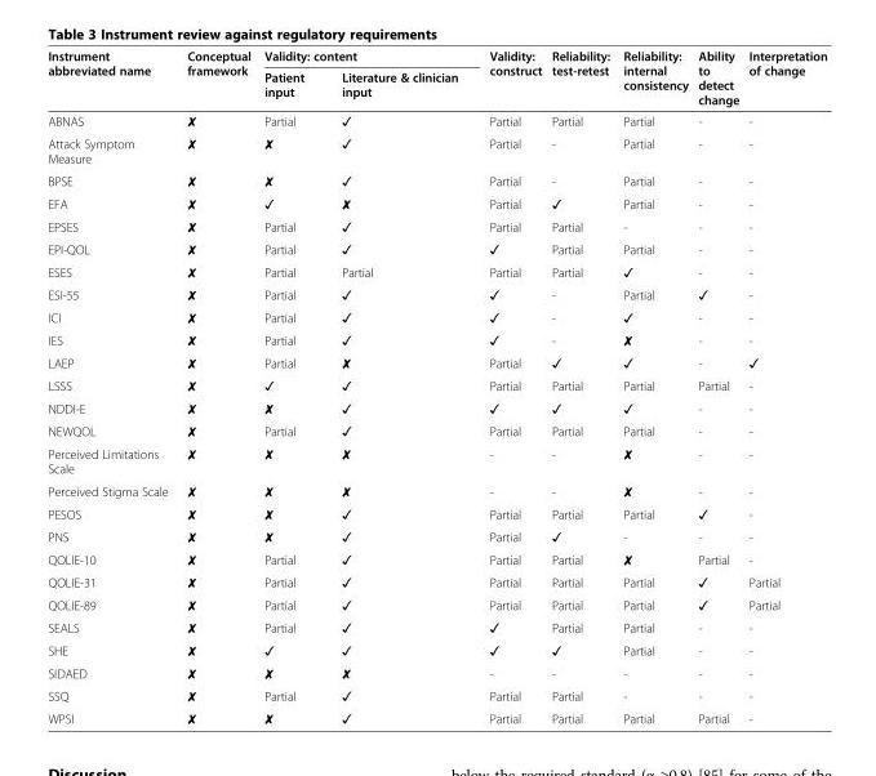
<table><thead><tr><td rowspan="2">Instrument abbreviated name</td><td rowspan="2">Conceptual framework</td><td colspan="2">Validity: content</td><td rowspan="2">Validity: construct</td><td rowspan="2">Reliability: test-retest</td><td rowspan="2">Reliability: internal consistency</td><td rowspan="2">Ability to detect change</td><td rowspan="2">Interpretation of change</td></tr><tr><td>Patient input</td><td>Literature &amp; clinician input</td></tr></thead><tbody><tr><td>ABNAS</td><td>✘</td><td>Partial</td><td>✓</td><td>Partial</td><td>Partial</td><td>Partial</td><td>-</td><td>-</td></tr><tr><td>Attack Symptom Measure</td><td>✘</td><td>✘</td><td>✓</td><td>Partial</td><td>-</td><td>Partial</td><td>-</td><td>-</td></tr><tr><td>BPSE</td><td>✘</td><td>✘</td><td>✓</td><td>Partial</td><td>-</td><td>Partial</td><td>-</td><td>-</td></tr><tr><td>EFA</td><td>✘</td><td>✓</td><td>✘</td><td>Partial</td><td>✓</td><td>Partial</td><td>-</td><td>-</td></tr><tr><td>EPSES</td><td>✘</td><td>Partial</td><td>✓</td><td>Partial</td><td>Partial</td><td>-</td><td>-</td><td>-</td></tr><tr><td>EPI-QOL</td><td>✘</td><td>Partial</td><td>✓</td><td>✓</td><td>Partial</td><td>Partial</td><td>-</td><td>-</td></tr><tr><td>ESES</td><td>✘</td><td>Partial</td><td>Partial</td><td>Partial</td><td>Partial</td><td>✓</td><td>-</td><td>-</td></tr><tr><td>ESI-55</td><td>✘</td><td>Partial</td><td>✓</td><td>✓</td><td>-</td><td>Partial</td><td>✓</td><td>-</td></tr><tr><td>ICI</td><td>✘</td><td>Partial</td><td>✓</td><td>✓</td><td>-</td><td>✓</td><td>-</td><td>-</td></tr><tr><td>IES</td><td>✘</td><td>Partial</td><td>✓</td><td>✓</td><td>-</td><td>✘</td><td>-</td><td>-</td></tr><tr><td>LAEP</td><td>✘</td><td>Partial</td><td>✘</td><td>Partial</td><td>✓</td><td>✓</td><td>-</td><td>✓</td></tr><tr><td>LSSS</td><td>✘</td><td>✓</td><td>✓</td><td>Partial</td><td>Partial</td><td>Partial</td><td>Partial</td><td>-</td></tr><tr><td>NDDI-E</td><td>✘</td><td>✘</td><td>✓</td><td>✓</td><td>✓</td><td>✓</td><td>-</td><td>-</td></tr><tr><td>NEWQOL</td><td>✘</td><td>Partial</td><td>✓</td><td>Partial</td><td>Partial</td><td>Partial</td><td>-</td><td>-</td></tr><tr><td>Perceived Limitations Scale</td><td>✘</td><td>✘</td><td>✘</td><td>-</td><td>-</td><td>✘</td><td>-</td><td>-</td></tr><tr><td>Perceived Stigma Scale</td><td>✘</td><td>✘</td><td>✘</td><td>-</td><td>-</td><td>✘</td><td>-</td><td>-</td></tr><tr><td>PESOS</td><td>✘</td><td>✘</td><td>✓</td><td>Partial</td><td>Partial</td><td>Partial</td><td>✓</td><td>-</td></tr><tr><td>PNS</td><td>✘</td><td>✘</td><td>✓</td><td>Partial</td><td>✓</td><td>-</td><td>-</td><td>-</td></tr><tr><td>QOLIE-10</td><td>✘</td><td>Partial</td><td>✓</td><td>Partial</td><td>Partial</td><td>✘</td><td>Partial</td><td>-</td></tr><tr><td>QOLIE-31</td><td>✘</td><td>Partial</td><td>✓</td><td>Partial</td><td>Partial</td><td>Partial</td><td>✓</td><td>Partial</td></tr><tr><td>QOLIE-89</td><td>✘</td><td>Partial</td><td>✓</td><td>Partial</td><td>Partial</td><td>Partial</td><td>✓</td><td>Partial</td></tr><tr><td>SEALS</td><td>✘</td><td>Partial</td><td>✓</td><td>✓</td><td>Partial</td><td>Partial</td><td>-</td><td>-</td></tr><tr><td>SHE</td><td>✘</td><td>✓</td><td>✓</td><td>✓</td><td>✓</td><td>Partial</td><td>-</td><td>-</td></tr><tr><td>SIDAED</td><td>✘</td><td>✘</td><td>✘</td><td>-</td><td>-</td><td>-</td><td>-</td><td>-</td></tr><tr><td>SSQ</td><td>✘</td><td>Partial</td><td>✓</td><td>Partial</td><td>Partial</td><td>-</td><td>-</td><td>-</td></tr><tr><td>WPSI</td><td>✘</td><td>✘</td><td>✓</td><td>Partial</td><td>Partial</td><td>Partial</td><td>Partial</td><td>-</td></tr></tbody></table>